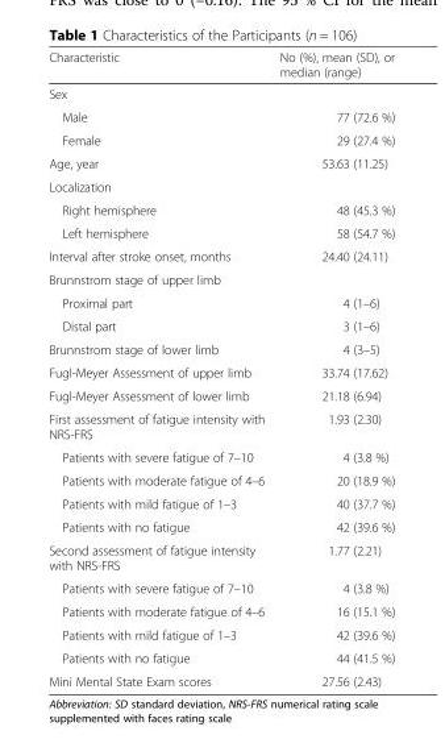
<table><thead><tr><td>Characteristic</td><td>No (%), mean (SD), or median (range)</td></tr></thead><tbody><tr><td colspan="2">Sex</td></tr><tr><td>Male</td><td>77 (72.6 %)</td></tr><tr><td>Female</td><td>29 (27.4 %)</td></tr><tr><td>Age, year</td><td>53.63 (11.25)</td></tr><tr><td colspan="2">Localization</td></tr><tr><td>Right hemisphere</td><td>48 (45.3 %)</td></tr><tr><td>Left hemisphere</td><td>58 (54.7 %)</td></tr><tr><td>Interval after stroke onset, months</td><td>24.40 (24.11)</td></tr><tr><td colspan="2">Brunnstrom stage of upper limb</td></tr><tr><td>Proximal part</td><td>4 (1–6)</td></tr><tr><td>Distal part</td><td>3 (1–6)</td></tr><tr><td>Brunnstrom stage of lower limb</td><td>4 (3–5)</td></tr><tr><td>Fugl-Meyer Assessment of upper limb</td><td>33.74 (17.62)</td></tr><tr><td>Fugl-Meyer Assessment of lower limb</td><td>21.18 (6.94)</td></tr><tr><td>First assessment of fatigue intensity with NRS-FRS</td><td>1.93 (2.30)</td></tr><tr><td>Patients with severe fatigue of 7–10</td><td>4 (3.8 %)</td></tr><tr><td>Patients with moderate fatigue of 4–6</td><td>20 (18.9 %)</td></tr><tr><td>Patients with mild fatigue of 1–3</td><td>40 (37.7 %)</td></tr><tr><td>Patients with no fatigue</td><td>42 (39.6 %)</td></tr><tr><td>Second assessment of fatigue intensity with NRS-FRS</td><td>1.77 (2.21)</td></tr><tr><td>Patients with severe fatigue of 7–10</td><td>4 (3.8 %)</td></tr><tr><td>Patients with moderate fatigue of 4–6</td><td>16 (15.1 %)</td></tr><tr><td>Patients with mild fatigue of 1–3</td><td>42 (39.6 %)</td></tr><tr><td>Patients with no fatigue</td><td>44 (41.5 %)</td></tr><tr><td>Mini Mental State Exam scores</td><td>27.56 (2.43)</td></tr></tbody></table>